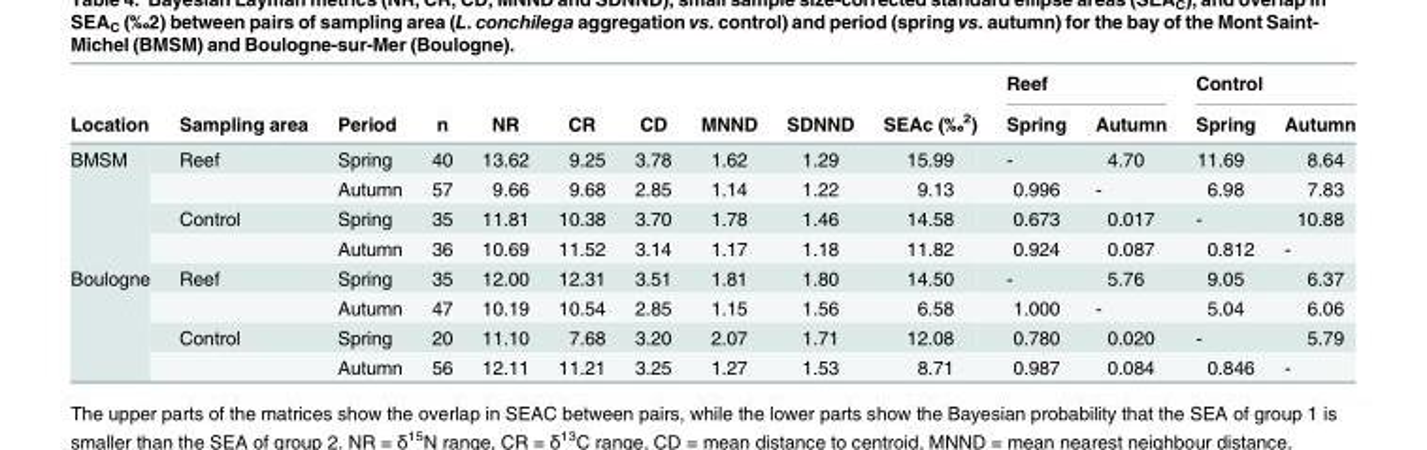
<table><thead><tr><td rowspan="2">Location</td><td rowspan="2">Sampling area</td><td rowspan="2">Period</td><td rowspan="2">n</td><td rowspan="2">NR</td><td rowspan="2">CR</td><td rowspan="2">CD</td><td rowspan="2">MNND</td><td rowspan="2">SDNND</td><td rowspan="2">SEAc (‰<sup>2</sup>)</td><td colspan="2">Reef</td><td colspan="2">Control</td></tr><tr><td>Spring</td><td>Autumn</td><td>Spring</td><td>Autumn</td></tr></thead><tbody><tr><td rowspan="4">BMSM</td><td>Reef</td><td>Spring</td><td>40</td><td>13.62</td><td>9.25</td><td>3.78</td><td>1.62</td><td>1.29</td><td>15.99</td><td>-</td><td>4.70</td><td>11.69</td><td>8.64</td></tr><tr><td></td><td>Autumn</td><td>57</td><td>9.66</td><td>9.68</td><td>2.85</td><td>1.14</td><td>1.22</td><td>9.13</td><td>0.996</td><td>-</td><td>6.98</td><td>7.83</td></tr><tr><td>Control</td><td>Spring</td><td>35</td><td>11.81</td><td>10.38</td><td>3.70</td><td>1.78</td><td>1.46</td><td>14.58</td><td>0.673</td><td>0.017</td><td>-</td><td>10.88</td></tr><tr><td></td><td>Autumn</td><td>36</td><td>10.69</td><td>11.52</td><td>3.14</td><td>1.17</td><td>1.18</td><td>11.82</td><td>0.924</td><td>0.087</td><td>0.812</td><td>-</td></tr><tr><td rowspan="4">Boulogne</td><td>Reef</td><td>Spring</td><td>35</td><td>12.00</td><td>12.31</td><td>3.51</td><td>1.81</td><td>1.80</td><td>14.50</td><td>-</td><td>5.76</td><td>9.05</td><td>6.37</td></tr><tr><td></td><td>Autumn</td><td>47</td><td>10.19</td><td>10.54</td><td>2.85</td><td>1.15</td><td>1.56</td><td>6.58</td><td>1.000</td><td>-</td><td>5.04</td><td>6.06</td></tr><tr><td>Control</td><td>Spring</td><td>20</td><td>11.10</td><td>7.68</td><td>3.20</td><td>2.07</td><td>1.71</td><td>12.08</td><td>0.780</td><td>0.020</td><td>-</td><td>5.79</td></tr><tr><td></td><td>Autumn</td><td>56</td><td>12.11</td><td>11.21</td><td>3.25</td><td>1.27</td><td>1.53</td><td>8.71</td><td>0.987</td><td>0.084</td><td>0.846</td><td>-</td></tr></tbody></table>